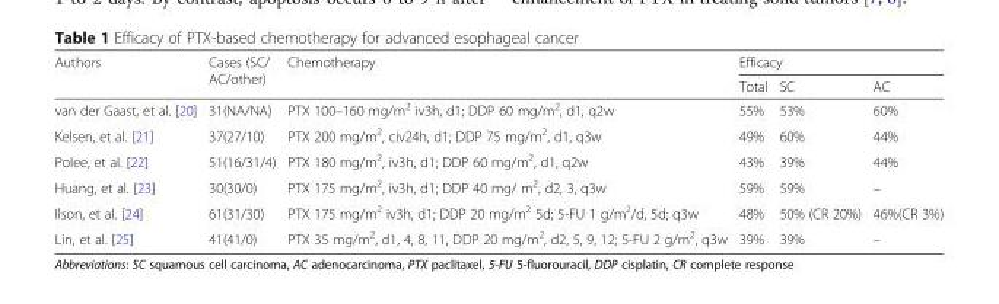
<table><thead><tr><td rowspan="2">Authors</td><td rowspan="2">Cases (SC/ AC/other)</td><td rowspan="2">Chemotherapy</td><td colspan="3">Efficacy</td></tr><tr><td>Total</td><td>SC</td><td>AC</td></tr></thead><tbody><tr><td>van der Gaast, et al. [20]</td><td>31(NA/NA)</td><td>PTX 100–160 mg/m<sup>2</sup> iv3h, d1; DDP 60 mg/m<sup>2</sup>, d1, q2w</td><td>55%</td><td>53%</td><td>60%</td></tr><tr><td>Kelsen, et al. [21]</td><td>37(27/10)</td><td>PTX 200 mg/m<sup>2</sup>, civ24h, d1; DDP 75 mg/m<sup>2</sup>, d1, q3w</td><td>49%</td><td>60%</td><td>44%</td></tr><tr><td>Polee, et al. [22]</td><td>51(16/31/4)</td><td>PTX 180 mg/m<sup>2</sup>, iv3h, d1; DDP 60 mg/m<sup>2</sup>, d1, q2w</td><td>43%</td><td>39%</td><td>44%</td></tr><tr><td>Huang, et al. [23]</td><td>30(30/0)</td><td>PTX 175 mg/m<sup>2</sup>, iv3h, d1; DDP 40 mg/ m<sup>2</sup>, d2, 3, q3w</td><td>59%</td><td>59%</td><td>–</td></tr><tr><td>Ilson, et al. [24]</td><td>61(31/30)</td><td>PTX 175 mg/m<sup>2</sup> iv3h, d1; DDP 20 mg/m<sup>2</sup> 5d; 5-FU 1 g/m<sup>2</sup>/d, 5d; q3w</td><td>48%</td><td>50% (CR 20%)</td><td>46%(CR 3%)</td></tr><tr><td>Lin, et al. [25]</td><td>41(41/0)</td><td>PTX 35 mg/m<sup>2</sup>, d1, 4, 8, 11, DDP 20 mg/m<sup>2</sup>, d2, 5, 9, 12; 5-FU 2 g/m<sup>2</sup>, q3w</td><td>39%</td><td>39%</td><td>–</td></tr></tbody></table>